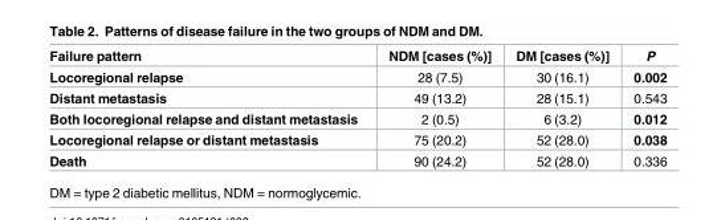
<table><thead><tr><td>Failure pattern</td><td>NDM [cases (%)]</td><td>DM [cases (%)]</td><td>P</td></tr></thead><tbody><tr><td>Locoregional relapse</td><td>28 (7.5)</td><td>30 (16.1)</td><td>0.002</td></tr><tr><td>Distant metastasis</td><td>49 (13.2)</td><td>28 (15.1)</td><td>0.543</td></tr><tr><td>Both locoregional relapse and distant metastasis</td><td>2 (0.5)</td><td>6 (3.2)</td><td>0.012</td></tr><tr><td>Locoregional relapse or distant metastasis</td><td>75 (20.2)</td><td>52 (28.0)</td><td>0.038</td></tr><tr><td>Death</td><td>90 (24.2)</td><td>52 (28.0)</td><td>0.336</td></tr></tbody></table>